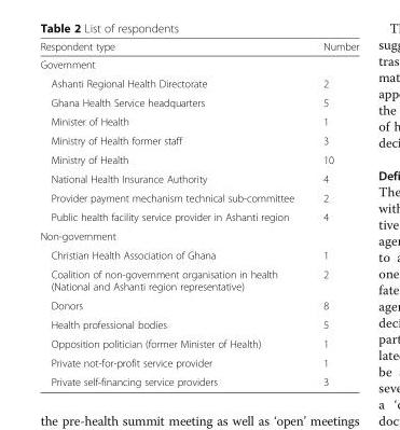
<table><thead><tr><td>Respondent type</td><td>Number</td></tr></thead><tbody><tr><td colspan="2">Government</td></tr><tr><td>Ashanti Regional Health Directorate</td><td>2</td></tr><tr><td>Ghana Health Service headquarters</td><td>5</td></tr><tr><td>Minister of Health</td><td>1</td></tr><tr><td>Ministry of Health former staff</td><td>3</td></tr><tr><td>Ministry of Health</td><td>10</td></tr><tr><td>National Health Insurance Authority</td><td>4</td></tr><tr><td>Provider payment mechanism technical sub-committee</td><td>2</td></tr><tr><td>Public health facility service provider in Ashanti region</td><td>4</td></tr><tr><td colspan="2">Non-government</td></tr><tr><td>Christian Health Association of Ghana</td><td>1</td></tr><tr><td>Coalition of non-government organisation in health (National and Ashanti region representative)</td><td>2</td></tr><tr><td>Donors</td><td>8</td></tr><tr><td>Health professional bodies</td><td>5</td></tr><tr><td>Opposition politician (former Minister of Health)</td><td>1</td></tr><tr><td>Private not-for-profit service provider</td><td>1</td></tr><tr><td>Private self-financing service providers</td><td>3</td></tr></tbody></table>